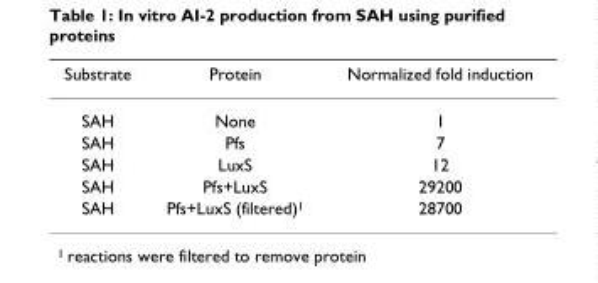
<table><thead><tr><td>Substrate</td><td>Protein</td><td>Normalized fold induction</td></tr></thead><tbody><tr><td>SAH</td><td>None</td><td>1</td></tr><tr><td>SAH</td><td>Pfs</td><td>7</td></tr><tr><td>SAH</td><td>LuxS</td><td>12</td></tr><tr><td>SAH</td><td>Pfs+LuxS</td><td>29200</td></tr><tr><td>SAH</td><td>Pfs+LuxS (filtered)<sup>1</sup></td><td>28700</td></tr></tbody></table>